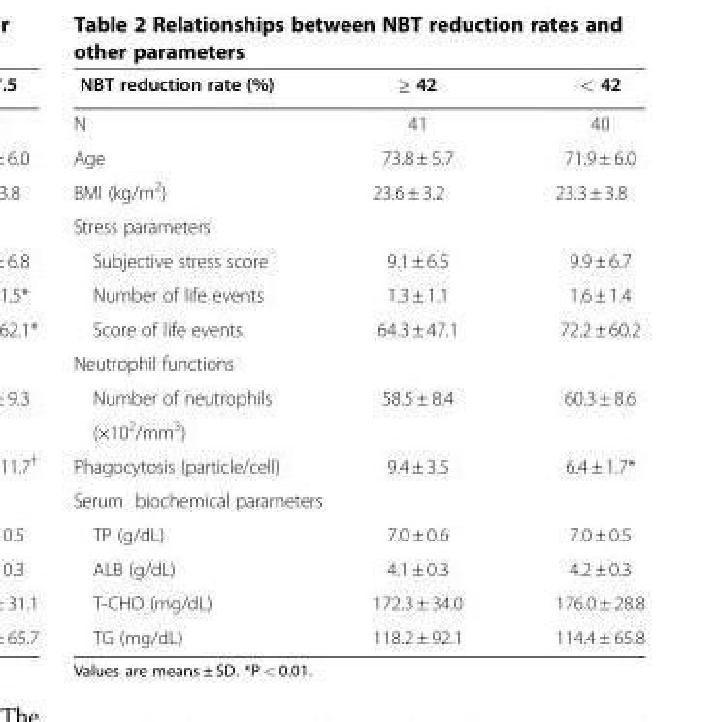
<table><thead><tr><td>NBT reduction rate (%)</td><td>≥ 42</td><td>&lt; 42</td></tr></thead><tbody><tr><td>N</td><td>41</td><td>40</td></tr><tr><td>Age</td><td>73.8 ± 5.7</td><td>71.9 ± 6.0</td></tr><tr><td>BMI (kg/m<sup>2</sup>)</td><td>23.6 ± 3.2</td><td>23.3 ± 3.8</td></tr><tr><td colspan="3">Stress parameters</td></tr><tr><td>Subjective stress score</td><td>9.1 ± 6.5</td><td>9.9 ± 6.7</td></tr><tr><td>Number of life events</td><td>1.3 ± 1.1</td><td>1.6 ± 1.4</td></tr><tr><td>Score of life events</td><td>64.3 ± 47.1</td><td>72.2 ± 60.2</td></tr><tr><td colspan="3">Neutrophil functions</td></tr><tr><td>Number of neutrophils</td><td>58.5 ± 8.4</td><td>60.3 ± 8.6</td></tr><tr><td colspan="3">(×10<sup>2</sup>/mm<sup>3</sup>)</td></tr><tr><td>Phagocytosis (particle/cell)</td><td>9.4 ± 3.5</td><td>6.4 ± 1.7*</td></tr><tr><td colspan="3">Serum biochemical parameters</td></tr><tr><td>TP (g/dL)</td><td>7.0 ± 0.6</td><td>7.0 ± 0.5</td></tr><tr><td>ALB (g/dL)</td><td>4.1 ± 0.3</td><td>4.2 ± 0.3</td></tr><tr><td>T-CHO (mg/dL)</td><td>172.3 ± 34.0</td><td>176.0 ± 28.8</td></tr><tr><td>TG (mg/dL)</td><td>118.2 ± 92.1</td><td>114.4 ± 65.8</td></tr></tbody></table>